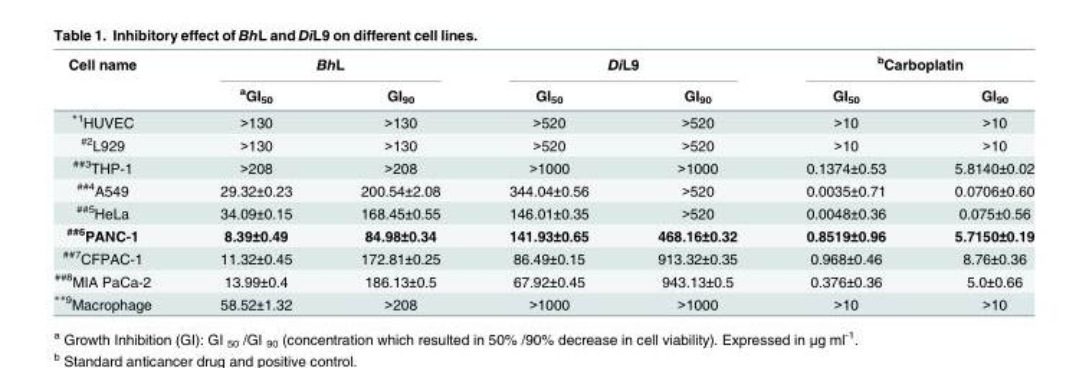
<table><thead><tr><td rowspan="2">Cell name</td><td colspan="2">BhL</td><td colspan="2">DiL9</td><td colspan="2"><sup>b</sup>Carboplatin</td></tr><tr><td><sup>a</sup>GI<sub>50</sub></td><td>GI<sub>90</sub></td><td>GI<sub>50</sub></td><td>GI<sub>90</sub></td><td>GI<sub>50</sub></td><td>GI<sub>90</sub></td></tr></thead><tbody><tr><td><sup>*1</sup>HUVEC</td><td>&gt;130</td><td>&gt;130</td><td>&gt;520</td><td>&gt;520</td><td>&gt;10</td><td>&gt;10</td></tr><tr><td><sup>#2</sup>L929</td><td>&gt;130</td><td>&gt;130</td><td>&gt;520</td><td>&gt;520</td><td>&gt;10</td><td>&gt;10</td></tr><tr><td><sup>##3</sup>THP-1</td><td>&gt;208</td><td>&gt;208</td><td>&gt;1000</td><td>&gt;1000</td><td>0.1374±0.53</td><td>5.8140±0.02</td></tr><tr><td><sup>##4</sup>A549</td><td>29.32±0.23</td><td>200.54±2.08</td><td>344.04±0.56</td><td>&gt;520</td><td>0.0035±0.71</td><td>0.0706±0.60</td></tr><tr><td><sup>##5</sup>HeLa</td><td>34.09±0.15</td><td>168.45±0.55</td><td>146.01±0.35</td><td>&gt;520</td><td>0.0048±0.36</td><td>0.075±0.56</td></tr><tr><td><sup>##6</sup>PANC-1</td><td>8.39±0.49</td><td>84.98±0.34</td><td>141.93±0.65</td><td>468.16±0.32</td><td>0.8519±0.96</td><td>5.7150±0.19</td></tr><tr><td><sup>##7</sup>CFPAC-1</td><td>11.32±0.45</td><td>172.81±0.25</td><td>86.49±0.15</td><td>913.32±0.35</td><td>0.968±0.46</td><td>8.76±0.36</td></tr><tr><td><sup>##8</sup>MIA PaCa-2</td><td>13.99±0.4</td><td>186.13±0.5</td><td>67.92±0.45</td><td>943.13±0.5</td><td>0.376±0.36</td><td>5.0±0.66</td></tr><tr><td><sup>**9</sup>Macrophage</td><td>58.52±1.32</td><td>&gt;208</td><td>&gt;1000</td><td>&gt;1000</td><td>&gt;10</td><td>&gt;10</td></tr></tbody></table>